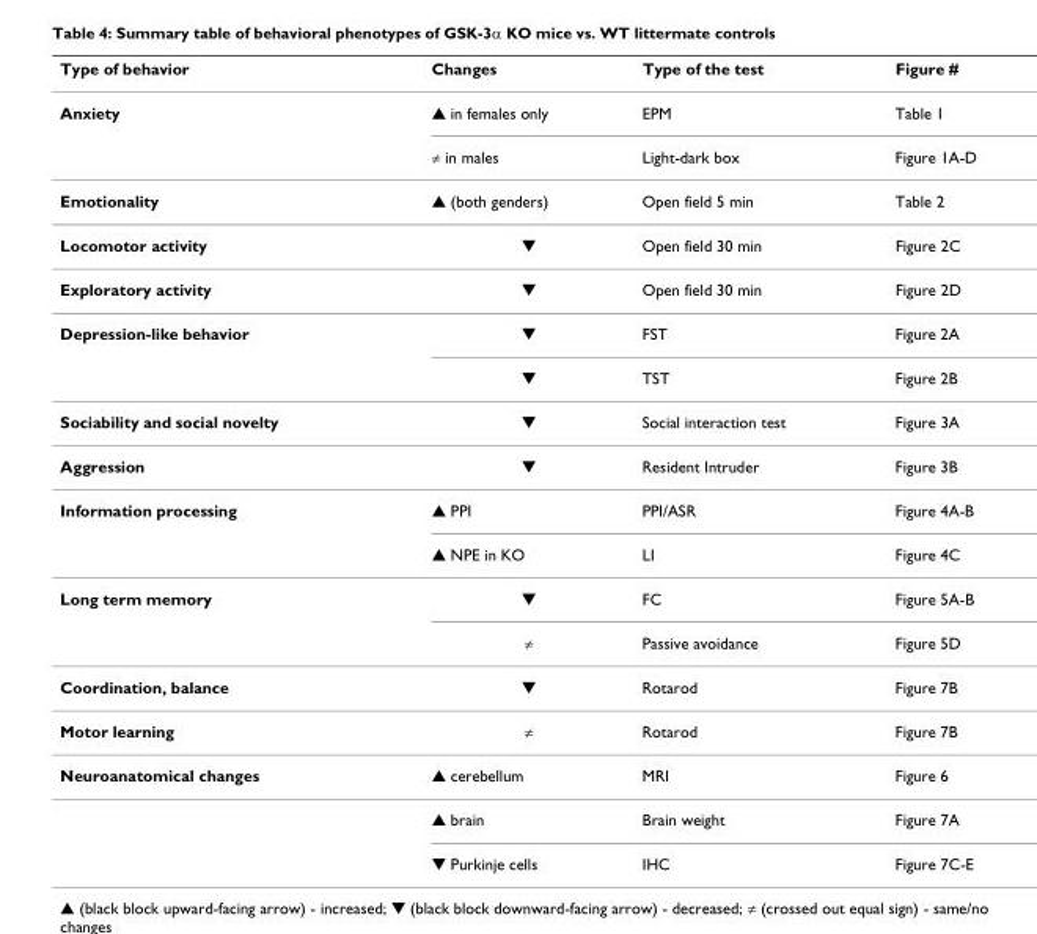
<table><thead><tr><td>Type of behavior</td><td>Changes</td><td>Type of the test</td><td>Figure #</td></tr></thead><tbody><tr><td rowspan="2">Anxiety</td><td>▲ in females only</td><td>EPM</td><td>Table 1</td></tr><tr><td>≠ in males</td><td>Light-dark box</td><td>Figure 1A-D</td></tr><tr><td>Emotionality</td><td>▲ (both genders)</td><td>Open field 5 min</td><td>Table 2</td></tr><tr><td>Locomotor activity</td><td>▼</td><td>Open field 30 min</td><td>Figure 2C</td></tr><tr><td>Exploratory activity</td><td>▼</td><td>Open field 30 min</td><td>Figure 2D</td></tr><tr><td rowspan="2">Depression-like behavior</td><td>▼</td><td>FST</td><td>Figure 2A</td></tr><tr><td>▼</td><td>TST</td><td>Figure 2B</td></tr><tr><td>Sociability and social novelty</td><td>▼</td><td>Social interaction test</td><td>Figure 3A</td></tr><tr><td>Aggression</td><td>▼</td><td>Resident Intruder</td><td>Figure 3B</td></tr><tr><td rowspan="2">Information processing</td><td>▲ PPI</td><td>PPI/ASR</td><td>Figure 4A-B</td></tr><tr><td>▲ NPE in KO</td><td>LI</td><td>Figure 4C</td></tr><tr><td rowspan="2">Long term memory</td><td>▼</td><td>FC</td><td>Figure 5A-B</td></tr><tr><td>≠</td><td>Passive avoidance</td><td>Figure 5D</td></tr><tr><td>Coordination, balance</td><td>▼</td><td>Rotarod</td><td>Figure 7B</td></tr><tr><td>Motor learning</td><td>≠</td><td>Rotarod</td><td>Figure 7B</td></tr><tr><td rowspan="3">Neuroanatomical changes</td><td>▲ cerebellum</td><td>MRI</td><td>Figure 6</td></tr><tr><td>▲ brain</td><td>Brain weight</td><td>Figure 7A</td></tr><tr><td>▼ Purkinje cells</td><td>IHC</td><td>Figure 7C-E</td></tr></tbody></table>